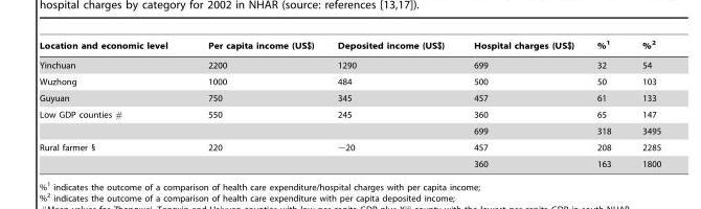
<table><thead><tr><td>Location and economic level</td><td>Per capita income (US$)</td><td>Deposited income (US$)</td><td>Hospital charges (US$)</td><td>%<sup>1</sup></td><td>%<sup>2</sup></td></tr></thead><tbody><tr><td>Yinchuan</td><td>2200</td><td>1290</td><td>699</td><td>32</td><td>54</td></tr><tr><td>Wuzhong</td><td>1000</td><td>484</td><td>500</td><td>50</td><td>103</td></tr><tr><td>Guyuan</td><td>750</td><td>345</td><td>457</td><td>61</td><td>133</td></tr><tr><td rowspan="2">Low GDP counties #</td><td>550</td><td>245</td><td>360</td><td>65</td><td>147</td></tr><tr><td></td><td></td><td>699</td><td>318</td><td>3495</td></tr><tr><td rowspan="2">Rural farmer §</td><td>220</td><td>∼20</td><td>457</td><td>208</td><td>2285</td></tr><tr><td></td><td></td><td>360</td><td>163</td><td>1800</td></tr></tbody></table>